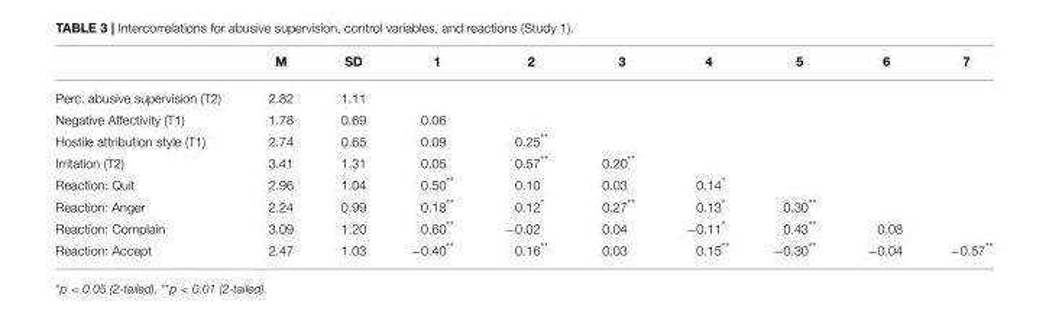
<table><thead><tr><td></td><td>M</td><td>SD</td><td>1</td><td>2</td><td>3</td><td>4</td><td>5</td><td>6</td><td>7</td></tr></thead><tbody><tr><td>Perc. abusive supervision (T2)</td><td>2.82</td><td>1.11</td><td></td><td></td><td></td><td></td><td></td><td></td><td></td></tr><tr><td>Negative Affectivity (T1)</td><td>1.78</td><td>0.69</td><td>0.06</td><td></td><td></td><td></td><td></td><td></td><td></td></tr><tr><td>Hostile attribution style (T1)</td><td>2.74</td><td>0.65</td><td>0.09</td><td>0.25**</td><td></td><td></td><td></td><td></td><td></td></tr><tr><td>Irritation (T2)</td><td>3.41</td><td>1.31</td><td>0.05</td><td>0.57**</td><td>0.20**</td><td></td><td></td><td></td><td></td></tr><tr><td>Reaction: Quit</td><td>2.96</td><td>1.04</td><td>0.50**</td><td>0.10</td><td>0.03</td><td>0.14*</td><td></td><td></td><td></td></tr><tr><td>Reaction: Anger</td><td>2.24</td><td>0.99</td><td>0.18**</td><td>0.12*</td><td>0.27**</td><td>0.13*</td><td>0.30**</td><td></td><td></td></tr><tr><td>Reaction: Complain</td><td>3.09</td><td>1.20</td><td>0.60**</td><td>−0.02</td><td>0.04</td><td>−0.11*</td><td>0.43**</td><td>0.08</td><td></td></tr><tr><td>Reaction: Accept</td><td>2.47</td><td>1.03</td><td>−0.40**</td><td>0.16**</td><td>0.03</td><td>0.15**</td><td>−0.30**</td><td>−0.04</td><td>−0.57**</td></tr></tbody></table>